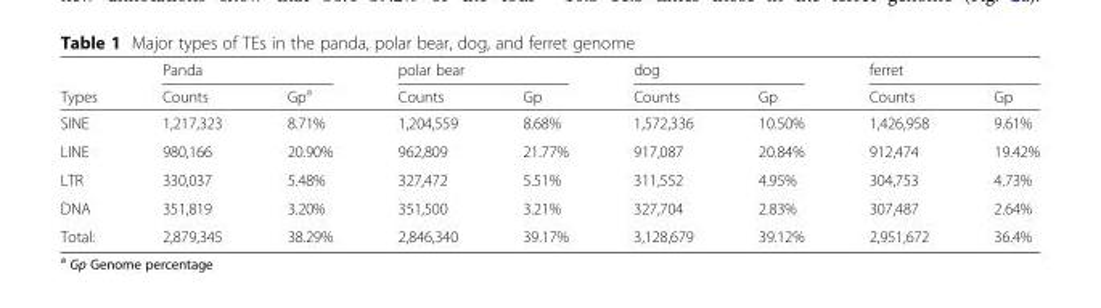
<table><thead><tr><td rowspan="2">Types</td><td colspan="2">Panda</td><td colspan="2">polar bear</td><td colspan="2">dog</td><td colspan="2">ferret</td></tr><tr><td>Counts</td><td>Gp<sup>a</sup></td><td>Counts</td><td>Gp</td><td>Counts</td><td>Gp</td><td>Counts</td><td>Gp</td></tr></thead><tbody><tr><td>SINE</td><td>1,217,323</td><td>8.71%</td><td>1,204,559</td><td>8.68%</td><td>1,572,336</td><td>10.50%</td><td>1,426,958</td><td>9.61%</td></tr><tr><td>LINE</td><td>980,166</td><td>20.90%</td><td>962,809</td><td>21.77%</td><td>917,087</td><td>20.84%</td><td>912,474</td><td>19.42%</td></tr><tr><td>LTR</td><td>330,037</td><td>5.48%</td><td>327,472</td><td>5.51%</td><td>311,552</td><td>4.95%</td><td>304,753</td><td>4.73%</td></tr><tr><td>DNA</td><td>351,819</td><td>3.20%</td><td>351,500</td><td>3.21%</td><td>327,704</td><td>2.83%</td><td>307,487</td><td>2.64%</td></tr><tr><td>Total:</td><td>2,879,345</td><td>38.29%</td><td>2,846,340</td><td>39.17%</td><td>3,128,679</td><td>39.12%</td><td>2,951,672</td><td>36.4%</td></tr></tbody></table>